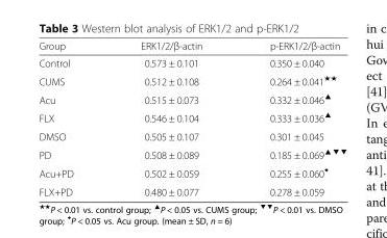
<table><thead><tr><td>Group</td><td>ERK1/2/β-actin</td><td>p-ERK1/2/β-actin</td></tr></thead><tbody><tr><td>Control</td><td>0.573 ± 0.101</td><td>0.350 ± 0.040</td></tr><tr><td>CUMS</td><td>0.512 ± 0.108</td><td>0.264 ± 0.041<sup>★★</sup></td></tr><tr><td>Acu</td><td>0.515 ± 0.073</td><td>0.332 ± 0.046<sup>▲</sup></td></tr><tr><td>FLX</td><td>0.546 ± 0.104</td><td>0.333 ± 0.036<sup>▲</sup></td></tr><tr><td>DMSO</td><td>0.505 ± 0.107</td><td>0.301 ± 0.045</td></tr><tr><td>PD</td><td>0.508 ± 0.089</td><td>0.185 ± 0.069<sup>▲▼▼</sup></td></tr><tr><td>Acu+PD</td><td>0.502 ± 0.059</td><td>0.255 ± 0.060<sup>◆</sup></td></tr><tr><td>FLX+PD</td><td>0.480 ± 0.077</td><td>0.278 ± 0.059</td></tr></tbody></table>